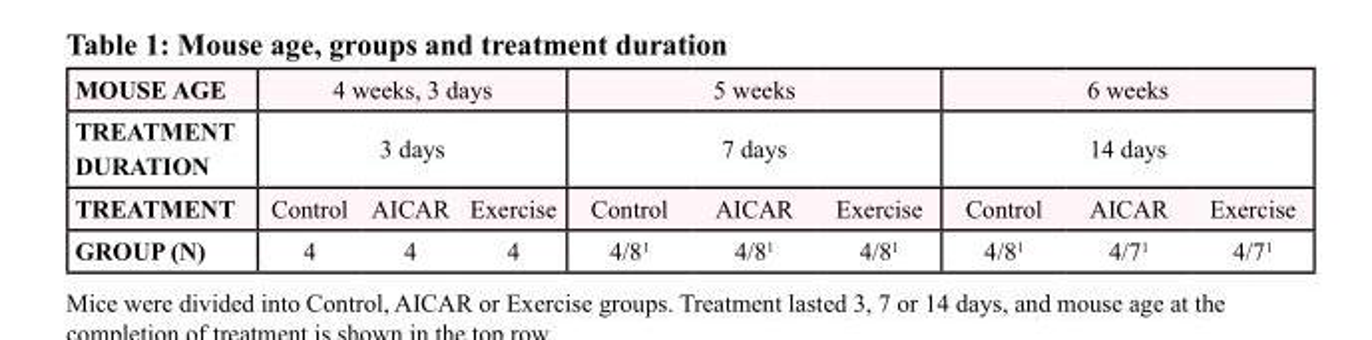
<table><tbody><tr><td>MOUSE AGE</td><td colspan="3">4 weeks, 3 days</td><td colspan="3">5 weeks</td><td colspan="3">6 weeks</td></tr><tr><td>TREATMENT DURATION</td><td colspan="3">3 days</td><td colspan="3">7 days</td><td colspan="3">14 days</td></tr><tr><td>TREATMENT</td><td>Control</td><td>AICAR</td><td>Exercise</td><td>Control</td><td>AICAR</td><td>Exercise</td><td>Control</td><td>AICAR</td><td>Exercise</td></tr><tr><td>GROUP (N)</td><td>4</td><td>4</td><td>4</td><td>4/8<sup>1</sup></td><td>4/8<sup>1</sup></td><td>4/8<sup>1</sup></td><td>4/8<sup>1</sup></td><td>4/7<sup>1</sup></td><td>4/7<sup>1</sup></td></tr></tbody></table>